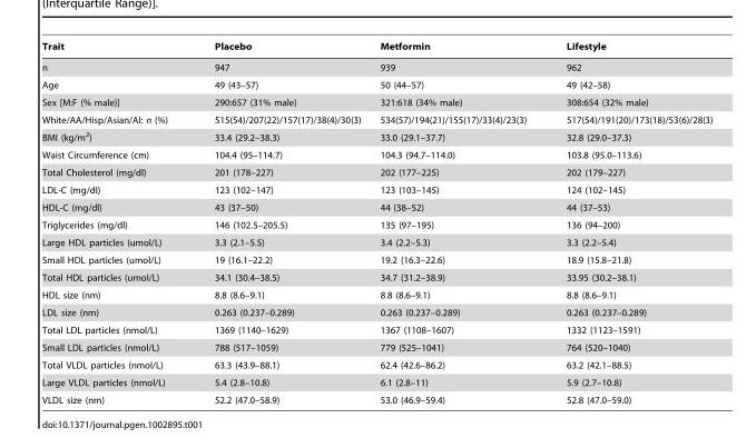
<table><thead><tr><td>Trait</td><td>Placebo</td><td>Metformin</td><td>Lifestyle</td></tr></thead><tbody><tr><td>n</td><td>947</td><td>939</td><td>962</td></tr><tr><td>Age</td><td>49 (43–57)</td><td>50 (44–57)</td><td>49 (42–58)</td></tr><tr><td>Sex [M:F (% male)]</td><td>290:657 (31% male)</td><td>321:618 (34% male)</td><td>308:654 (32% male)</td></tr><tr><td>White/AA/Hisp/Asian/AI: n (%)</td><td>515(54)/207(22)/157(17)/38(4)/30(3)</td><td>534(57)/194(21)/155(17)/33(4)/23(3)</td><td>517(54)/191(20)/173(18)/53(6)/28(3)</td></tr><tr><td>BMI (kg/m<sup>2</sup>)</td><td>33.4 (29.2–38.3)</td><td>33.0 (29.1–37.7)</td><td>32.8 (29.0–37.3)</td></tr><tr><td>Waist Circumference (cm)</td><td>104.4 (95–114.7)</td><td>104.3 (94.7–114.0)</td><td>103.8 (95.0–113.6)</td></tr><tr><td>Total Cholesterol (mg/dl)</td><td>201 (178–227)</td><td>202 (177–225)</td><td>202 (179–227)</td></tr><tr><td>LDL-C (mg/dl)</td><td>123 (102–147)</td><td>123 (103–145)</td><td>124 (102–145)</td></tr><tr><td>HDL-C (mg/dl)</td><td>43 (37–50)</td><td>44 (38–52)</td><td>44 (37–53)</td></tr><tr><td>Triglycerides (mg/dl)</td><td>146 (102.5–205.5)</td><td>135 (97–195)</td><td>136 (94–200)</td></tr><tr><td>Large HDL particles (umol/L)</td><td>3.3 (2.1–5.5)</td><td>3.4 (2.2–5.3)</td><td>3.3 (2.2–5.4)</td></tr><tr><td>Small HDL particles (umol/L)</td><td>19 (16.1–22.2)</td><td>19.2 (16.3–22.6)</td><td>18.9 (15.8–21.8)</td></tr><tr><td>Total HDL particles (umol/L)</td><td>34.1 (30.4–38.5)</td><td>34.7 (31.2–38.9)</td><td>33.95 (30.2–38.1)</td></tr><tr><td>HDL size (nm)</td><td>8.8 (8.6–9.1)</td><td>8.8 (8.6–9.1)</td><td>8.8 (8.6–9.1)</td></tr><tr><td>LDL size (nm)</td><td>0.263 (0.237–0.289)</td><td>0.263 (0.237–0.289)</td><td>0.263 (0.237–0.289)</td></tr><tr><td>Total LDL particles (nmol/L)</td><td>1369 (1140–1629)</td><td>1367 (1108–1607)</td><td>1332 (1123–1591)</td></tr><tr><td>Small LDL particles (nmol/L)</td><td>788 (517–1059)</td><td>779 (525–1041)</td><td>764 (520–1040)</td></tr><tr><td>Total VLDL particles (nmol/L)</td><td>63.3 (43.9–88.1)</td><td>62.4 (42.6–86.2)</td><td>63.2 (42.1–88.5)</td></tr><tr><td>Large VLDL particles (nmol/L)</td><td>5.4 (2.8–10.8)</td><td>6.1 (2.8–11)</td><td>5.9 (2.7–10.8)</td></tr><tr><td>VLDL size (nm)</td><td>52.2 (47.0–58.9)</td><td>53.0 (46.9–59.4)</td><td>52.8 (47.0–59.0)</td></tr></tbody></table>